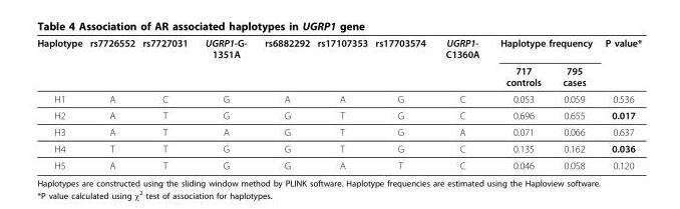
<table><thead><tr><td rowspan="2">Haplotype</td><td rowspan="2">rs7726552</td><td rowspan="2">rs7727031</td><td rowspan="2">UGRP1-G- 1351A</td><td rowspan="2">rs6882292</td><td rowspan="2">rs17107353</td><td rowspan="2">rs17703574</td><td rowspan="2">UGRP1- C1360A</td><td colspan="2">Haplotype frequency</td><td rowspan="2">P value*</td></tr><tr><td>717 controls</td><td>795 cases</td></tr></thead><tbody><tr><td>H1</td><td>A</td><td>C</td><td>G</td><td>A</td><td>A</td><td>G</td><td>C</td><td>0.053</td><td>0.059</td><td>0.536</td></tr><tr><td>H2</td><td>A</td><td>T</td><td>G</td><td>G</td><td>T</td><td>G</td><td>C</td><td>0.696</td><td>0.655</td><td>0.017</td></tr><tr><td>H3</td><td>A</td><td>T</td><td>A</td><td>G</td><td>T</td><td>G</td><td>A</td><td>0.071</td><td>0.066</td><td>0.637</td></tr><tr><td>H4</td><td>T</td><td>T</td><td>G</td><td>G</td><td>T</td><td>G</td><td>C</td><td>0.135</td><td>0.162</td><td>0.036</td></tr><tr><td>H5</td><td>A</td><td>T</td><td>G</td><td>G</td><td>A</td><td>T</td><td>C</td><td>0.046</td><td>0.058</td><td>0.120</td></tr></tbody></table>